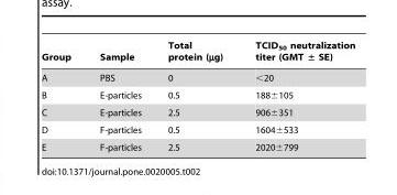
<table><thead><tr><td>Group</td><td>Sample</td><td>Total protein (µg)</td><td>TCID<sub>50</sub> neutralization titer (GMT ± SE)</td></tr></thead><tbody><tr><td>A</td><td>PBS</td><td>0</td><td>&lt;20</td></tr><tr><td>B</td><td>E-particles</td><td>0.5</td><td>188±105</td></tr><tr><td>C</td><td>E-particles</td><td>2.5</td><td>906±351</td></tr><tr><td>D</td><td>F-particles</td><td>0.5</td><td>1604±533</td></tr><tr><td>E</td><td>F-particles</td><td>2.5</td><td>2020±799</td></tr></tbody></table>